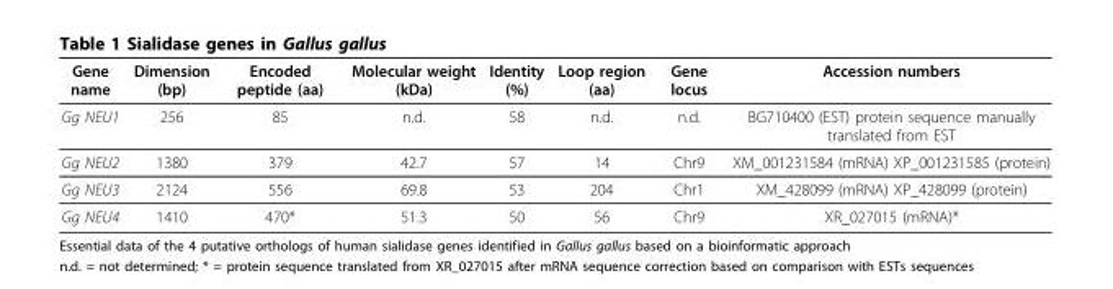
<table><thead><tr><td>Gene name</td><td>Dimension (bp)</td><td>Encoded peptide (aa)</td><td>Molecular weight (kDa)</td><td>Identity (%)</td><td>Loop region (aa)</td><td>Gene locus</td><td>Accession numbers</td></tr></thead><tbody><tr><td>Gg NEU1</td><td>256</td><td>85</td><td>n.d.</td><td>58</td><td>n.d.</td><td>n.d.</td><td>BG710400 (EST) protein sequence manually translated from EST</td></tr><tr><td>Gg NEU2</td><td>1380</td><td>379</td><td>42.7</td><td>57</td><td>14</td><td>Chr9</td><td>XM_001231584 (mRNA) XP_001231585 (protein)</td></tr><tr><td>Gg NEU3</td><td>2124</td><td>556</td><td>69.8</td><td>53</td><td>204</td><td>Chr1</td><td>XM_428099 (mRNA) XP_428099 (protein)</td></tr><tr><td>Gg NEU4</td><td>1410</td><td>470*</td><td>51.3</td><td>50</td><td>56</td><td>Chr9</td><td>XR_027015 (mRNA)*</td></tr></tbody></table>